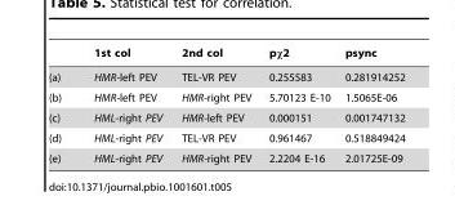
<table><thead><tr><td></td><td>1st col</td><td>2nd col</td><td>pχ2</td><td>psync</td></tr></thead><tbody><tr><td>(a)</td><td>HMR-left PEV</td><td>TEL-VR PEV</td><td>0.255583</td><td>0.281914252</td></tr><tr><td>(b)</td><td>HMR-left PEV</td><td>HMR-right PEV</td><td>5.70123 E-10</td><td>1.5065E-06</td></tr><tr><td>(c)</td><td>HML-right PEV</td><td>HMR-left PEV</td><td>0.000151</td><td>0.001747132</td></tr><tr><td>(d)</td><td>HML-right PEV</td><td>TEL-VR PEV</td><td>0.961467</td><td>0.518849424</td></tr><tr><td>(e)</td><td>HML-right PEV</td><td>HMR-right PEV</td><td>2.2204 E-16</td><td>2.01725E-09</td></tr></tbody></table>